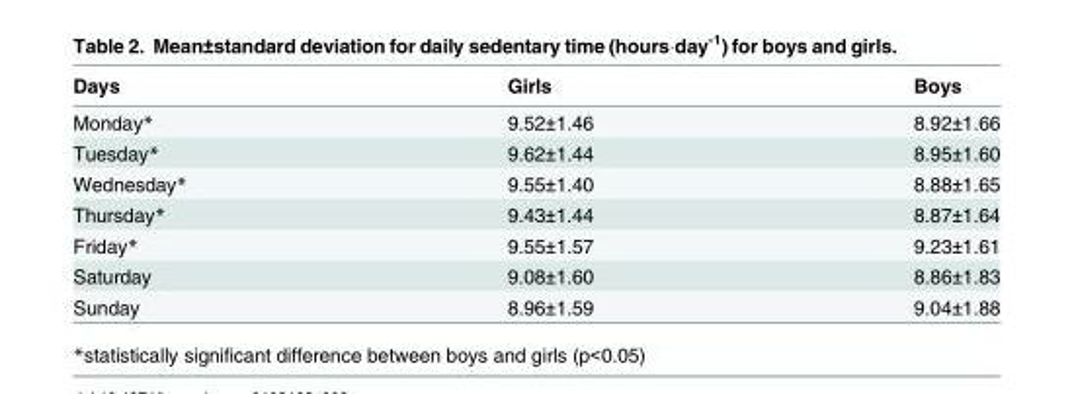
<table><thead><tr><td>Days</td><td>Girls</td><td>Boys</td></tr></thead><tbody><tr><td>Monday*</td><td>9.52±1.46</td><td>8.92±1.66</td></tr><tr><td>Tuesday*</td><td>9.62±1.44</td><td>8.95±1.60</td></tr><tr><td>Wednesday*</td><td>9.55±1.40</td><td>8.88±1.65</td></tr><tr><td>Thursday*</td><td>9.43±1.44</td><td>8.87±1.64</td></tr><tr><td>Friday*</td><td>9.55±1.57</td><td>9.23±1.61</td></tr><tr><td>Saturday</td><td>9.08±1.60</td><td>8.86±1.83</td></tr><tr><td>Sunday</td><td>8.96±1.59</td><td>9.04±1.88</td></tr></tbody></table>